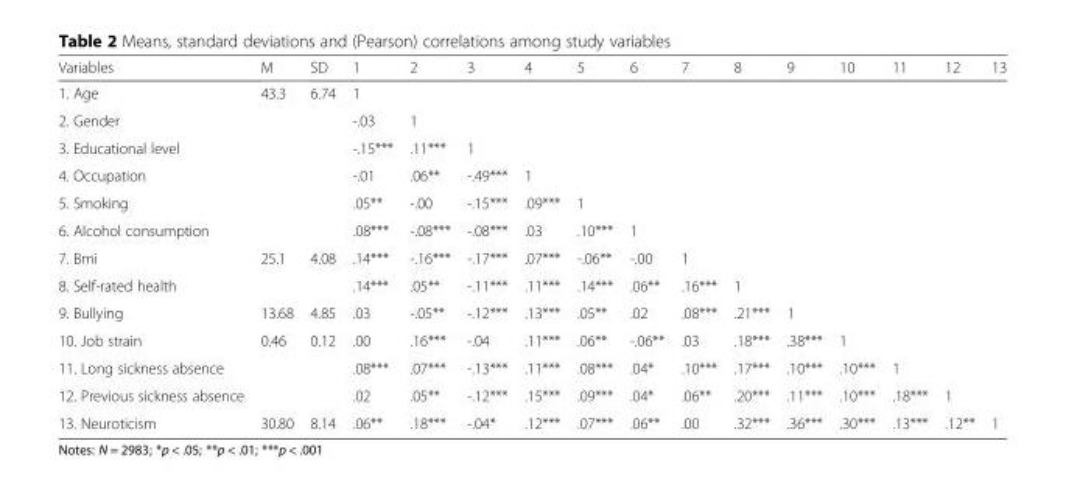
<table><thead><tr><td>Variables</td><td>M</td><td>SD</td><td>1</td><td>2</td><td>3</td><td>4</td><td>5</td><td>6</td><td>7</td><td>8</td><td>9</td><td>10</td><td>11</td><td>12</td><td>13</td></tr></thead><tbody><tr><td>1. Age</td><td>43.3</td><td>6.74</td><td>1</td><td></td><td></td><td></td><td></td><td></td><td></td><td></td><td></td><td></td><td></td><td></td><td></td></tr><tr><td>2. Gender</td><td></td><td></td><td>-.03</td><td>1</td><td></td><td></td><td></td><td></td><td></td><td></td><td></td><td></td><td></td><td></td><td></td></tr><tr><td>3. Educational level</td><td></td><td></td><td>-.15***</td><td>.11***</td><td>1</td><td></td><td></td><td></td><td></td><td></td><td></td><td></td><td></td><td></td><td></td></tr><tr><td>4. Occupation</td><td></td><td></td><td>-.01</td><td>.06**</td><td>-.49***</td><td>1</td><td></td><td></td><td></td><td></td><td></td><td></td><td></td><td></td><td></td></tr><tr><td>5. Smoking</td><td></td><td></td><td>.05**</td><td>-.00</td><td>-.15***</td><td>.09***</td><td>1</td><td></td><td></td><td></td><td></td><td></td><td></td><td></td><td></td></tr><tr><td>6. Alcohol consumption</td><td></td><td></td><td>.08***</td><td>-.08***</td><td>-.08***</td><td>.03</td><td>.10***</td><td>1</td><td></td><td></td><td></td><td></td><td></td><td></td><td></td></tr><tr><td>7. Bmi</td><td>25.1</td><td>4.08</td><td>.14***</td><td>-.16***</td><td>-.17***</td><td>.07***</td><td>-.06**</td><td>-.00</td><td>1</td><td></td><td></td><td></td><td></td><td></td><td></td></tr><tr><td>8. Self-rated health</td><td></td><td></td><td>.14***</td><td>.05**</td><td>-.11***</td><td>.11***</td><td>.14***</td><td>.06**</td><td>.16***</td><td>1</td><td></td><td></td><td></td><td></td><td></td></tr><tr><td>9. Bullying</td><td>13.68</td><td>4.85</td><td>.03</td><td>-.05**</td><td>-.12***</td><td>.13***</td><td>.05**</td><td>.02</td><td>.08***</td><td>.21***</td><td>1</td><td></td><td></td><td></td><td></td></tr><tr><td>10. Job strain</td><td>0.46</td><td>0.12</td><td>.00</td><td>.16***</td><td>-.04</td><td>.11***</td><td>.06**</td><td>-.06**</td><td>.03</td><td>.18***</td><td>.38***</td><td>1</td><td></td><td></td><td></td></tr><tr><td>11. Long sickness absence</td><td></td><td></td><td>.08***</td><td>.07***</td><td>-.13***</td><td>.11***</td><td>.08***</td><td>.04*</td><td>.10***</td><td>.17***</td><td>.10***</td><td>.10***</td><td>1</td><td></td><td></td></tr><tr><td>12. Previous sickness absence</td><td></td><td></td><td>.02</td><td>.05**</td><td>-.12***</td><td>.15***</td><td>.09***</td><td>.04*</td><td>.06**</td><td>.20***</td><td>.11***</td><td>.10***</td><td>.18***</td><td>1</td><td></td></tr><tr><td>13. Neuroticism</td><td>30.80</td><td>8.14</td><td>.06**</td><td>.18***</td><td>-.04*</td><td>.12***</td><td>.07***</td><td>.06**</td><td>.00</td><td>.32***</td><td>.36***</td><td>.30***</td><td>.13***</td><td>.12**</td><td>1</td></tr></tbody></table>